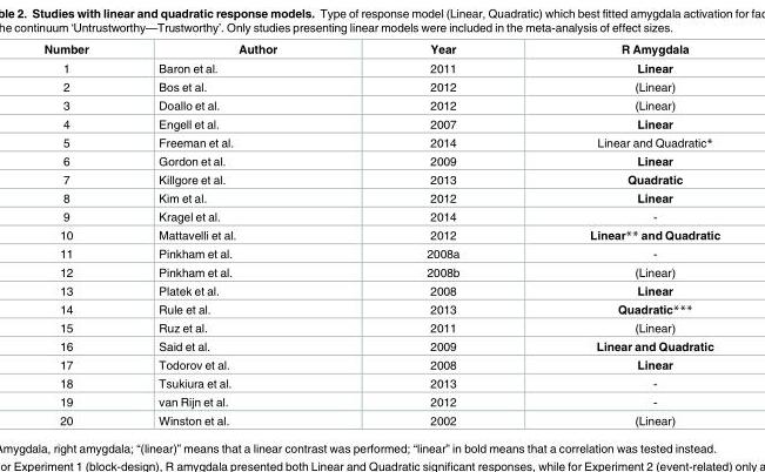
<table><thead><tr><td>Number</td><td>Author</td><td>Year</td><td>R Amygdala</td></tr></thead><tbody><tr><td>1</td><td>Baron et al.</td><td>2011</td><td>Linear</td></tr><tr><td>2</td><td>Bos et al.</td><td>2012</td><td>(Linear)</td></tr><tr><td>3</td><td>Doallo et al.</td><td>2012</td><td>(Linear)</td></tr><tr><td>4</td><td>Engell et al.</td><td>2007</td><td>Linear</td></tr><tr><td>5</td><td>Freeman et al.</td><td>2014</td><td>Linear and Quadratic*</td></tr><tr><td>6</td><td>Gordon et al.</td><td>2009</td><td>Linear</td></tr><tr><td>7</td><td>Killgore et al.</td><td>2013</td><td>Quadratic</td></tr><tr><td>8</td><td>Kim et al.</td><td>2012</td><td>Linear</td></tr><tr><td>9</td><td>Kragel et al.</td><td>2014</td><td>-</td></tr><tr><td>10</td><td>Mattavelli et al.</td><td>2012</td><td>Linear** and Quadratic</td></tr><tr><td>11</td><td>Pinkham et al.</td><td>2008a</td><td>-</td></tr><tr><td>12</td><td>Pinkham et al.</td><td>2008b</td><td>(Linear)</td></tr><tr><td>13</td><td>Platek et al.</td><td>2008</td><td>Linear</td></tr><tr><td>14</td><td>Rule et al.</td><td>2013</td><td>Quadratic***</td></tr><tr><td>15</td><td>Ruz et al.</td><td>2011</td><td>(Linear)</td></tr><tr><td>16</td><td>Said et al.</td><td>2009</td><td>Linear and Quadratic</td></tr><tr><td>17</td><td>Todorov et al.</td><td>2008</td><td>Linear</td></tr><tr><td>18</td><td>Tsukiura et al.</td><td>2013</td><td>-</td></tr><tr><td>19</td><td>van Rijn et al.</td><td>2012</td><td>-</td></tr><tr><td>20</td><td>Winston et al.</td><td>2002</td><td>(Linear)</td></tr></tbody></table>